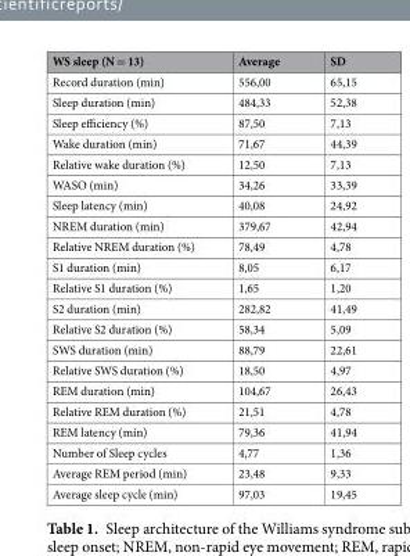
<table><thead><tr><td>WS sleep (N = 13)</td><td>Average</td><td>SD</td></tr></thead><tbody><tr><td>Record duration (min)</td><td>556,00</td><td>65,15</td></tr><tr><td>Sleep duration (min)</td><td>484,33</td><td>52,38</td></tr><tr><td>Sleep efficiency (%)</td><td>87,50</td><td>7,13</td></tr><tr><td>Wake duration (min)</td><td>71,67</td><td>44,39</td></tr><tr><td>Relative wake duration (%)</td><td>12,50</td><td>7,13</td></tr><tr><td>WASO (min)</td><td>34,26</td><td>33,39</td></tr><tr><td>Sleep latency (min)</td><td>40,08</td><td>24,92</td></tr><tr><td>NREM duration (min)</td><td>379,67</td><td>42,94</td></tr><tr><td>Relative NREM duration (%)</td><td>78,49</td><td>4,78</td></tr><tr><td>S1 duration (min)</td><td>8,05</td><td>6,17</td></tr><tr><td>Relative S1 duration (%)</td><td>1,65</td><td>1,20</td></tr><tr><td>S2 duration (min)</td><td>282,82</td><td>41,49</td></tr><tr><td>Relative S2 duration (%)</td><td>58,34</td><td>5,09</td></tr><tr><td>SWS duration (min)</td><td>88,79</td><td>22,61</td></tr><tr><td>Relative SWS duration (%)</td><td>18,50</td><td>4,97</td></tr><tr><td>REM duration (min)</td><td>104,67</td><td>26,43</td></tr><tr><td>Relative REM duration (%)</td><td>21,51</td><td>4,78</td></tr><tr><td>REM latency (min)</td><td>79,36</td><td>41,94</td></tr><tr><td>Number of Sleep cycles</td><td>4,77</td><td>1,36</td></tr><tr><td>Average REM period (min)</td><td>23,48</td><td>9,33</td></tr><tr><td>Average sleep cycle (min)</td><td>97,03</td><td>19,45</td></tr></tbody></table>